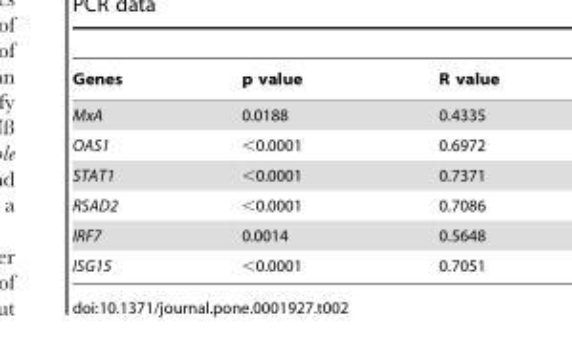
<table><thead><tr><td>Genes</td><td>p value</td><td>R value</td></tr></thead><tbody><tr><td>MxA</td><td>0.0188</td><td>0.4335</td></tr><tr><td>OAS1</td><td>&lt;0.0001</td><td>0.6972</td></tr><tr><td>STAT1</td><td>&lt;0.0001</td><td>0.7371</td></tr><tr><td>RSAD2</td><td>&lt;0.0001</td><td>0.7086</td></tr><tr><td>IRF7</td><td>0.0014</td><td>0.5648</td></tr><tr><td>ISG15</td><td>&lt;0.0001</td><td>0.7051</td></tr></tbody></table>